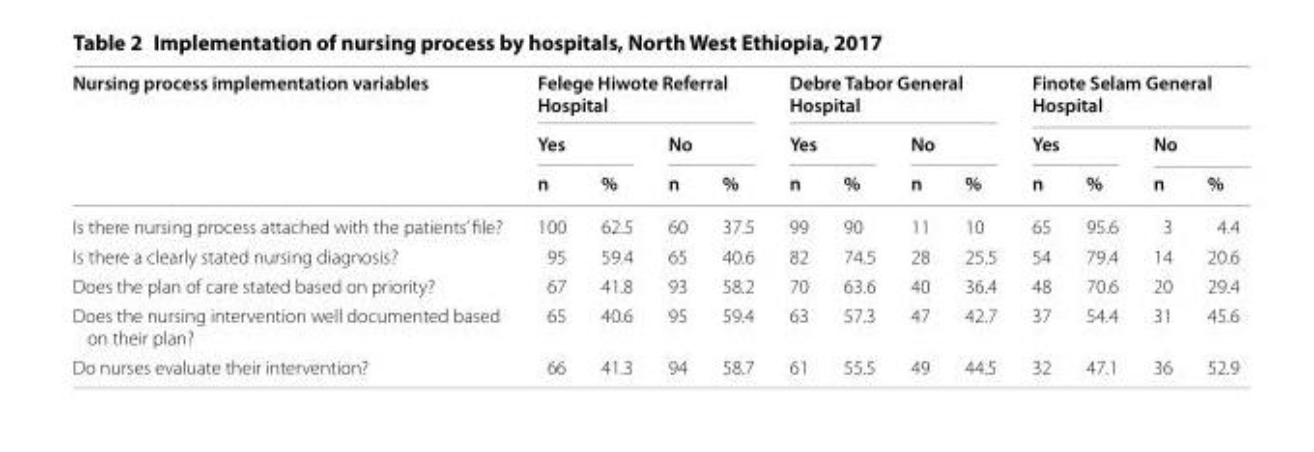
<table><thead><tr><td rowspan="3">Nursing process implementation variables</td><td colspan="4">Felege Hiwote Referral Hospital</td><td colspan="4">Debre Tabor General Hospital</td><td colspan="4">Finote Selam General Hospital</td></tr><tr><td colspan="2">Yes</td><td colspan="2">No</td><td colspan="2">Yes</td><td colspan="2">No</td><td colspan="2">Yes</td><td colspan="2">No</td></tr><tr><td>n</td><td>%</td><td>n</td><td>%</td><td>n</td><td>%</td><td>n</td><td>%</td><td>n</td><td>%</td><td>n</td><td>%</td></tr></thead><tbody><tr><td>Is there nursing process attached with the patients’ file?</td><td>100</td><td>62.5</td><td>60</td><td>37.5</td><td>99</td><td>90</td><td>11</td><td>10</td><td>65</td><td>95.6</td><td>3</td><td>4.4</td></tr><tr><td>Is there a clearly stated nursing diagnosis?</td><td>95</td><td>59.4</td><td>65</td><td>40.6</td><td>82</td><td>74.5</td><td>28</td><td>25.5</td><td>54</td><td>79.4</td><td>14</td><td>20.6</td></tr><tr><td>Does the plan of care stated based on priority?</td><td>67</td><td>41.8</td><td>93</td><td>58.2</td><td>70</td><td>63.6</td><td>40</td><td>36.4</td><td>48</td><td>70.6</td><td>20</td><td>29.4</td></tr><tr><td>Does the nursing intervention well documented based on their plan?</td><td>65</td><td>40.6</td><td>95</td><td>59.4</td><td>63</td><td>57.3</td><td>47</td><td>42.7</td><td>37</td><td>54.4</td><td>31</td><td>45.6</td></tr><tr><td>Do nurses evaluate their intervention?</td><td>66</td><td>41.3</td><td>94</td><td>58.7</td><td>61</td><td>55.5</td><td>49</td><td>44.5</td><td>32</td><td>47.1</td><td>36</td><td>52.9</td></tr></tbody></table>